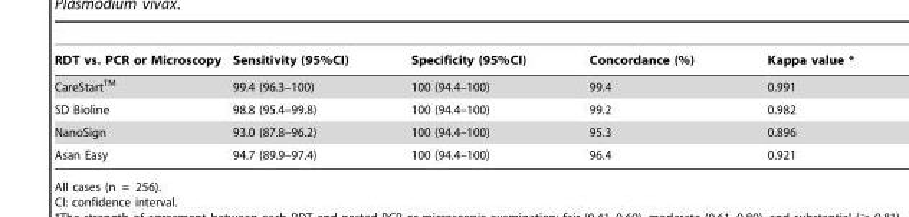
<table><thead><tr><td>RDT vs. PCR or Microscopy</td><td>Sensitivity (95%CI)</td><td>Specificity (95%CI)</td><td>Concordance (%)</td><td>Kappa value *</td></tr></thead><tbody><tr><td>CareStart<sup>TM</sup></td><td>99.4 (96.3–100)</td><td>100 (94.4–100)</td><td>99.4</td><td>0.991</td></tr><tr><td>SD Bioline</td><td>98.8 (95.4–99.8)</td><td>100 (94.4–100)</td><td>99.2</td><td>0.982</td></tr><tr><td>NanoSign</td><td>93.0 (87.8–96.2)</td><td>100 (94.4–100)</td><td>95.3</td><td>0.896</td></tr><tr><td>Asan Easy</td><td>94.7 (89.9–97.4)</td><td>100 (94.4–100)</td><td>96.4</td><td>0.921</td></tr></tbody></table>